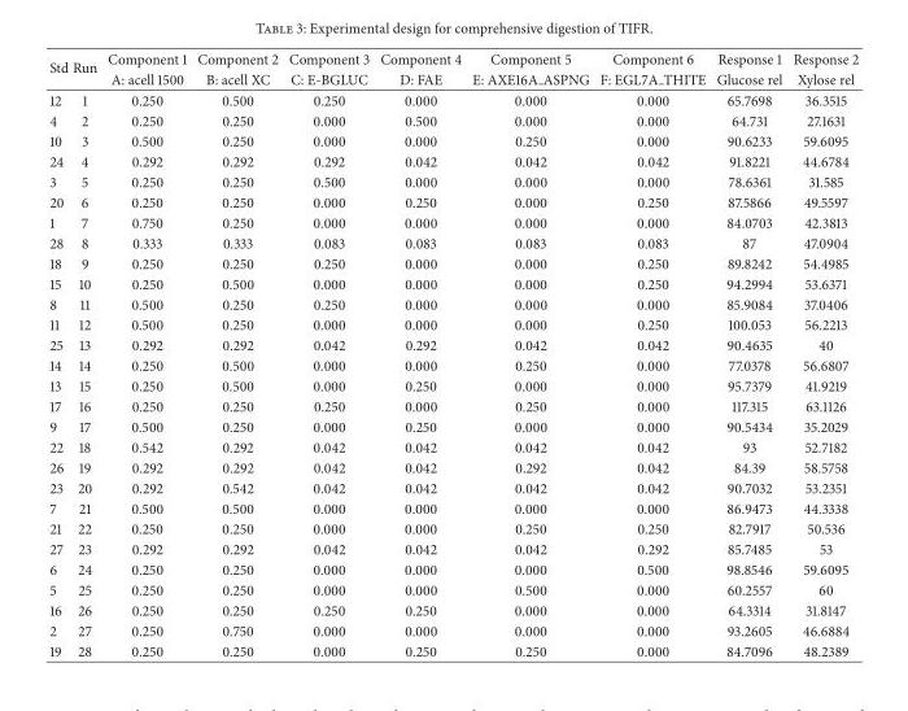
<table><thead><tr><td rowspan="2">Std</td><td rowspan="2">Run</td><td rowspan="2">Component 1 A: acell 1500</td><td rowspan="2">Component 2 B: acell XC</td><td rowspan="2">Component 3 C: E-BGLUC</td><td rowspan="2">Component 4 D: FAE</td><td rowspan="2">Component 5 E: AXE16A ASPNG</td><td rowspan="2">Component 6 F: EGL7A THITE</td><td rowspan="2">Response 1 Glucose rel</td><td rowspan="2">Response 2 Xylose rel</td></tr><tr></tr></thead><tbody><tr><td>12</td><td>1</td><td>0.250</td><td>0.500</td><td>0.250</td><td>0.000</td><td>0.000</td><td>0.000</td><td>65.7698</td><td>36.3515</td></tr><tr><td>4</td><td>2</td><td>0.250</td><td>0.250</td><td>0.000</td><td>0.500</td><td>0.000</td><td>0.000</td><td>64.731</td><td>27.1631</td></tr><tr><td>10</td><td>3</td><td>0.500</td><td>0.250</td><td>0.000</td><td>0.000</td><td>0.250</td><td>0.000</td><td>90.6233</td><td>59.6095</td></tr><tr><td>24</td><td>4</td><td>0.292</td><td>0.292</td><td>0.292</td><td>0.042</td><td>0.042</td><td>0.042</td><td>91.8221</td><td>44.6784</td></tr><tr><td>3</td><td>5</td><td>0.250</td><td>0.250</td><td>0.500</td><td>0.000</td><td>0.000</td><td>0.000</td><td>78.6361</td><td>31.585</td></tr><tr><td>20</td><td>6</td><td>0.250</td><td>0.250</td><td>0.000</td><td>0.250</td><td>0.000</td><td>0.250</td><td>87.5866</td><td>49.5597</td></tr><tr><td>1</td><td>7</td><td>0.750</td><td>0.250</td><td>0.000</td><td>0.000</td><td>0.000</td><td>0.000</td><td>84.0703</td><td>42.3813</td></tr><tr><td>28</td><td>8</td><td>0.333</td><td>0.333</td><td>0.083</td><td>0.083</td><td>0.083</td><td>0.083</td><td>87</td><td>47.0904</td></tr><tr><td>18</td><td>9</td><td>0.250</td><td>0.250</td><td>0.250</td><td>0.000</td><td>0.000</td><td>0.250</td><td>89.8242</td><td>54.4985</td></tr><tr><td>15</td><td>10</td><td>0.250</td><td>0.500</td><td>0.000</td><td>0.000</td><td>0.000</td><td>0.250</td><td>94.2994</td><td>53.6371</td></tr><tr><td>8</td><td>11</td><td>0.500</td><td>0.250</td><td>0.250</td><td>0.000</td><td>0.000</td><td>0.000</td><td>85.9084</td><td>37.0406</td></tr><tr><td>11</td><td>12</td><td>0.500</td><td>0.250</td><td>0.000</td><td>0.000</td><td>0.000</td><td>0.250</td><td>100.053</td><td>56.2213</td></tr><tr><td>25</td><td>13</td><td>0.292</td><td>0.292</td><td>0.042</td><td>0.292</td><td>0.042</td><td>0.042</td><td>90.4635</td><td>40</td></tr><tr><td>14</td><td>14</td><td>0.250</td><td>0.500</td><td>0.000</td><td>0.000</td><td>0.250</td><td>0.000</td><td>77.0378</td><td>56.6807</td></tr><tr><td>13</td><td>15</td><td>0.250</td><td>0.500</td><td>0.000</td><td>0.250</td><td>0.000</td><td>0.000</td><td>95.7379</td><td>41.9219</td></tr><tr><td>17</td><td>16</td><td>0.250</td><td>0.250</td><td>0.250</td><td>0.000</td><td>0.250</td><td>0.000</td><td>117.315</td><td>63.1126</td></tr><tr><td>9</td><td>17</td><td>0.500</td><td>0.250</td><td>0.000</td><td>0.250</td><td>0.000</td><td>0.000</td><td>90.5434</td><td>35.2029</td></tr><tr><td>22</td><td>18</td><td>0.542</td><td>0.292</td><td>0.042</td><td>0.042</td><td>0.042</td><td>0.042</td><td>93</td><td>52.7182</td></tr><tr><td>26</td><td>19</td><td>0.292</td><td>0.292</td><td>0.042</td><td>0.042</td><td>0.292</td><td>0.042</td><td>84.39</td><td>58.5758</td></tr><tr><td>23</td><td>20</td><td>0.292</td><td>0.542</td><td>0.042</td><td>0.042</td><td>0.042</td><td>0.042</td><td>90.7032</td><td>53.2351</td></tr><tr><td>7</td><td>21</td><td>0.500</td><td>0.500</td><td>0.000</td><td>0.000</td><td>0.000</td><td>0.000</td><td>86.9473</td><td>44.3338</td></tr><tr><td>21</td><td>22</td><td>0.250</td><td>0.250</td><td>0.000</td><td>0.000</td><td>0.250</td><td>0.250</td><td>82.7917</td><td>50.536</td></tr><tr><td>27</td><td>23</td><td>0.292</td><td>0.292</td><td>0.042</td><td>0.042</td><td>0.042</td><td>0.292</td><td>85.7485</td><td>53</td></tr><tr><td>6</td><td>24</td><td>0.250</td><td>0.250</td><td>0.000</td><td>0.000</td><td>0.000</td><td>0.500</td><td>98.8546</td><td>59.6095</td></tr><tr><td>5</td><td>25</td><td>0.250</td><td>0.250</td><td>0.000</td><td>0.000</td><td>0.500</td><td>0.000</td><td>60.2557</td><td>60</td></tr><tr><td>16</td><td>26</td><td>0.250</td><td>0.250</td><td>0.250</td><td>0.250</td><td>0.000</td><td>0.000</td><td>64.3314</td><td>31.8147</td></tr><tr><td>2</td><td>27</td><td>0.250</td><td>0.750</td><td>0.000</td><td>0.000</td><td>0.000</td><td>0.000</td><td>93.2605</td><td>46.6884</td></tr><tr><td>19</td><td>28</td><td>0.250</td><td>0.250</td><td>0.000</td><td>0.250</td><td>0.250</td><td>0.000</td><td>84.7096</td><td>48.2389</td></tr></tbody></table>